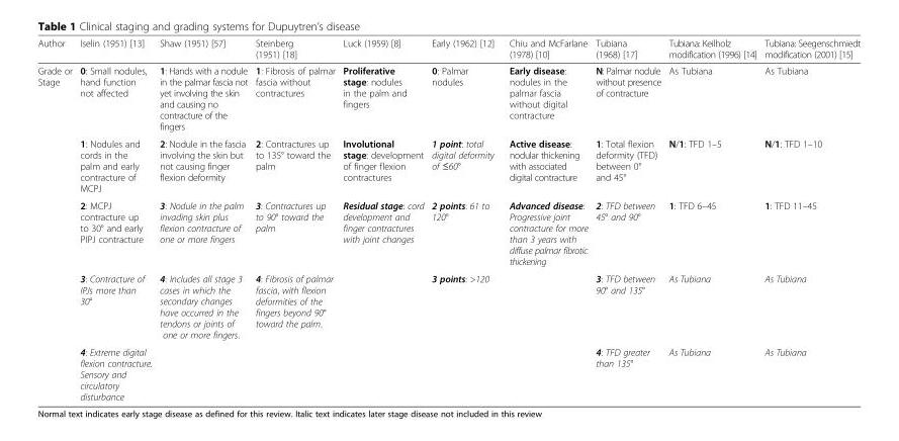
<table><thead><tr><td>Author</td><td>Iselin (1951) [13]</td><td>Shaw (1951) [57]</td><td>Steinberg (1951) [18]</td><td>Luck (1959) [8]</td><td>Early (1962) [12]</td><td>Chiu and McFarlane (1978) [10]</td><td>Tubiana (1968) [17]</td><td>Tubiana: Keilholz modification (1996) [14]</td><td>Tubiana: Seegenschmiedt modification (2001) [15]</td></tr></thead><tbody><tr><td rowspan="5">Grade or Stage</td><td>0: Small nodules, hand function not affected</td><td>1: Hands with a nodule in the palmar fascia not yet involving the skin and causing no contracture of the fingers</td><td>1: Fibrosis of palmar fascia without contractures</td><td>Proliferative stage: nodules in the palm and fingers</td><td>0: Palmar nodules</td><td>Early disease: nodules in the palmar fascia without digital contracture</td><td>N: Palmar nodule without presence of contracture</td><td>As Tubiana</td><td>As Tubiana</td></tr><tr><td>1: Nodules and cords in the palm and early contracture of MCPJ</td><td>2: Nodule in the fascia involving the skin but not causing finger flexion deformity</td><td>2: Contractures up to 135° toward the palm</td><td>Involutional stage: development of finger flexion contractures</td><td>1 point: total digital deformity of ≤60°</td><td>Active disease: nodular thickening with associated digital contracture</td><td>1: Total flexion deformity (TFD) between 0° and 45°</td><td>N/1: TFD 1–5</td><td>N/1: TFD 1–10</td></tr><tr><td>2: MCPJ contracture up to 30° and early PIPJ contracture</td><td>3: Nodule in the palm invading skin plus flexion contracture of one or more fingers</td><td>3: Contractures up to 90° toward the palm</td><td>Residual stage: cord development and finger contractures with joint changes</td><td>2 points: 61 to 120°</td><td>Advanced disease: Progressive joint contracture for more than 3 years with diffuse palmar fibrotic thickening</td><td>2: TFD between 45° and 90°</td><td>1: TFD 6–45</td><td>1: TFD 11–45</td></tr><tr><td>3: Contracture of IPJs more than 30°</td><td>4: Includes all stage 3 cases in which the secondary changes have occurred in the tendons or joints of one or more fingers.</td><td>4: Fibrosis of palmar fascia, with flexion deformities of the fingers beyond 90° toward the palm.</td><td></td><td>3 points: &gt;120</td><td></td><td>3: TFD between 90° and 135°</td><td>As Tubiana</td><td>As Tubiana</td></tr><tr><td>4: Extreme digital flexion contracture. Sensory and circulatory disturbance</td><td></td><td></td><td></td><td></td><td></td><td>4: TFD greater than 135°</td><td>As Tubiana</td><td>As Tubiana</td></tr></tbody></table>